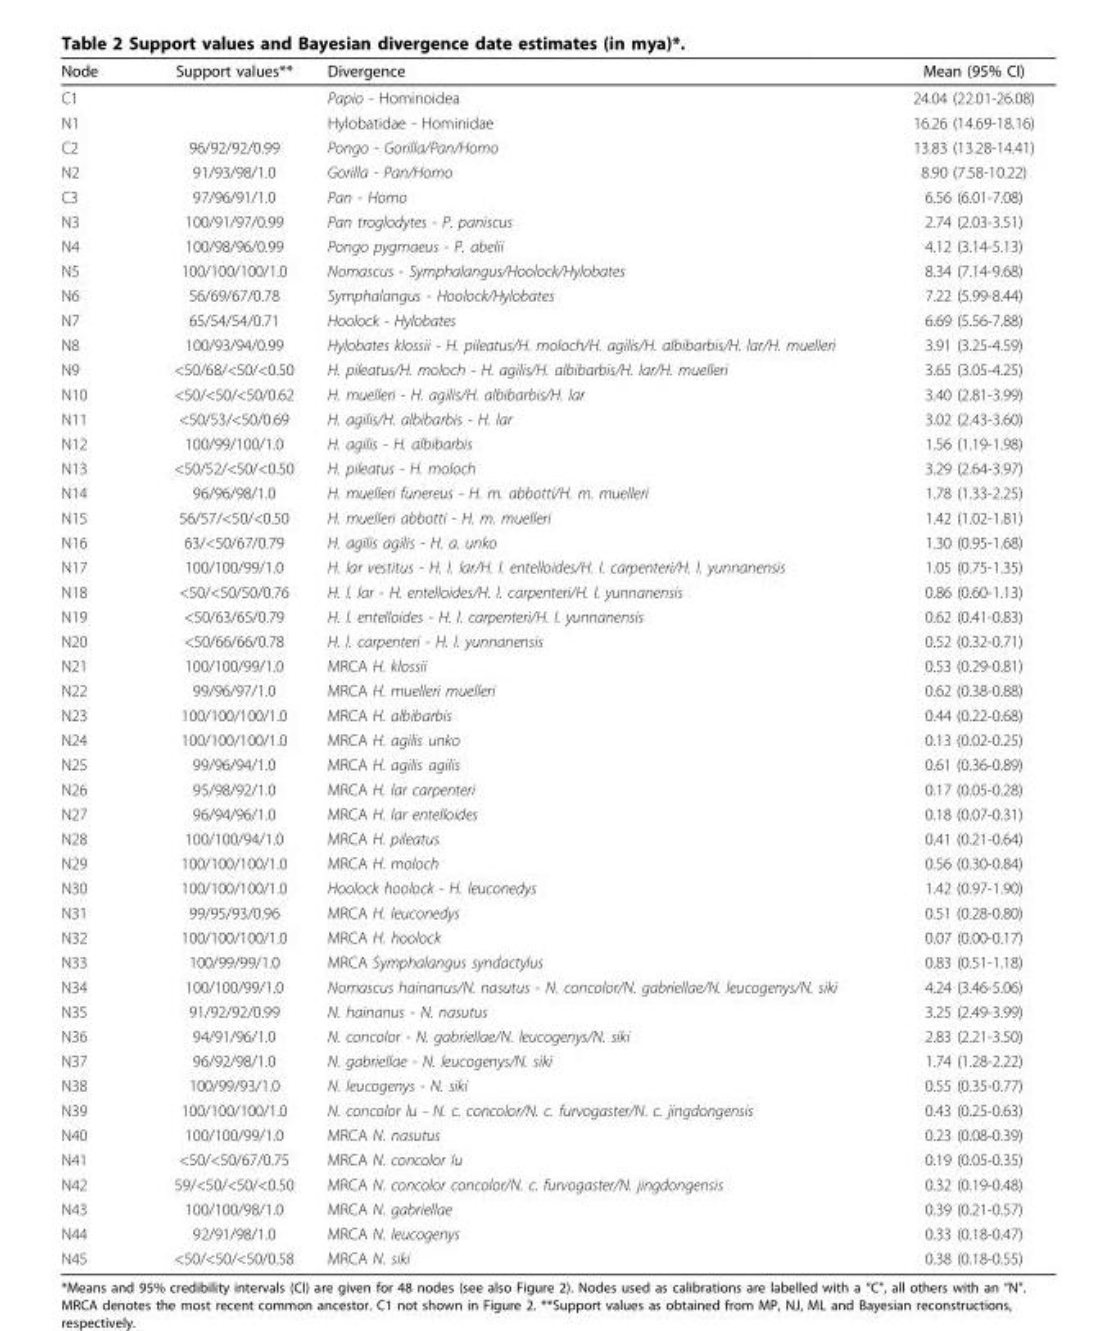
<table><thead><tr><td>Node</td><td>Support values**</td><td>Divergence</td><td>Mean (95% CI)</td></tr></thead><tbody><tr><td>C1</td><td></td><td>Papio - Hominoidea</td><td>24.04 (22.01-26.08)</td></tr><tr><td>N1</td><td></td><td>Hylobatidae - Hominidae</td><td>16.26 (14.69-18.16)</td></tr><tr><td>C2</td><td>96/92/92/0.99</td><td>Pongo - Gorilla/Pan/Homo</td><td>13.83 (13.28-14.41)</td></tr><tr><td>N2</td><td>91/93/98/1.0</td><td>Gorilla - Pan/Homo</td><td>8.90 (7.58-10.22)</td></tr><tr><td>C3</td><td>97/96/91/1.0</td><td>Pan - Homo</td><td>6.56 (6.01-7.08)</td></tr><tr><td>N3</td><td>100/91/97/0.99</td><td>Pan troglodytes - P. paniscus</td><td>2.74 (2.03-3.51)</td></tr><tr><td>N4</td><td>100/98/96/0.99</td><td>Pongo pygmaeus - P. abelii</td><td>4.12 (3.14-5.13)</td></tr><tr><td>N5</td><td>100/100/100/1.0</td><td>Nomascus - Symphalangus/Hoolock/Hylobates</td><td>8.34 (7.14-9.68)</td></tr><tr><td>N6</td><td>56/69/67/0.78</td><td>Symphalangus - Hoolock/Hylobates</td><td>7.22 (5.99-8.44)</td></tr><tr><td>N7</td><td>65/54/54/0.71</td><td>Hoolock - Hylobates</td><td>6.69 (5.56-7.88)</td></tr><tr><td>N8</td><td>100/93/94/0.99</td><td>Hylobates klossii - H. pileatus/H. moloch/H. agilis/H. albibarbis/H. lar/H. muelleri</td><td>3.91 (3.25-4.59)</td></tr><tr><td>N9</td><td>&lt;50/68/&lt;50/&lt;0.50</td><td>H. pileatus/H. moloch - H. agilis/H. albibarbis/H. lar/H. muelleri</td><td>3.65 (3.05-4.25)</td></tr><tr><td>N10</td><td>&lt;50/&lt;50/&lt;50/0.62</td><td>H. muelleri - H. agilis/H. albibarbis/H. lar</td><td>3.40 (2.81-3.99)</td></tr><tr><td>N11</td><td>&lt;50/53/&lt;50/0.69</td><td>H. agilis/H. albibarbis - H. lar</td><td>3.02 (2.43-3.60)</td></tr><tr><td>N12</td><td>100/99/100/1.0</td><td>H. agilis - H. albibarbis</td><td>1.56 (1.19-1.98)</td></tr><tr><td>N13</td><td>&lt;50/52/&lt;50/&lt;0.50</td><td>H. pileatus - H. moloch</td><td>3.29 (2.64-3.97)</td></tr><tr><td>N14</td><td>96/96/98/1.0</td><td>H. muelleri funereus - H. m. abbotti/H. m. muelleri</td><td>1.78 (1.33-2.25)</td></tr><tr><td>N15</td><td>56/57/&lt;50/&lt;0.50</td><td>H. muelleri abbotti - H. m. muelleri</td><td>1.42 (1.02-1.81)</td></tr><tr><td>N16</td><td>63/&lt;50/67/0.79</td><td>H. agilis agilis - H. a. unko</td><td>1.30 (0.95-1.68)</td></tr><tr><td>N17</td><td>100/100/99/1.0</td><td>H. lar vestitus - H. l. lar/H. l. entelloides/H. l. carpenteri/H. l. yunnanensis</td><td>1.05 (0.75-1.35)</td></tr><tr><td>N18</td><td>&lt;50/&lt;50/50/0.76</td><td>H. l. lar - H. entelloides/H. l. carpenteri/H. l. yunnanensis</td><td>0.86 (0.60-1.13)</td></tr><tr><td>N19</td><td>&lt;50/63/65/0.79</td><td>H. l. entelloides - H. l. carpenteri/H. l. yunnanensis</td><td>0.62 (0.41-0.83)</td></tr><tr><td>N20</td><td>&lt;50/66/66/0.78</td><td>H. l. carpenteri - H. l. yunnanensis</td><td>0.52 (0.32-0.71)</td></tr><tr><td>N21</td><td>100/100/99/1.0</td><td>MRCA H. klossii</td><td>0.53 (0.29-0.81)</td></tr><tr><td>N22</td><td>99/96/97/1.0</td><td>MRCA H. muelleri muelleri</td><td>0.62 (0.38-0.88)</td></tr><tr><td>N23</td><td>100/100/100/1.0</td><td>MRCA H. albibarbis</td><td>0.44 (0.22-0.68)</td></tr><tr><td>N24</td><td>100/100/100/1.0</td><td>MRCA H. agilis unko</td><td>0.13 (0.02-0.25)</td></tr><tr><td>N25</td><td>99/96/94/1.0</td><td>MRCA H. agilis agilis</td><td>0.61 (0.36-0.89)</td></tr><tr><td>N26</td><td>95/98/92/1.0</td><td>MRCA H. lar carpenteri</td><td>0.17 (0.05-0.28)</td></tr><tr><td>N27</td><td>96/94/96/1.0</td><td>MRCA H. lar entelloides</td><td>0.18 (0.07-0.31)</td></tr><tr><td>N28</td><td>100/100/94/1.0</td><td>MRCA H. pileatus</td><td>0.41 (0.21-0.64)</td></tr><tr><td>N29</td><td>100/100/100/1.0</td><td>MRCA H. moloch</td><td>0.56 (0.30-0.84)</td></tr><tr><td>N30</td><td>100/100/100/1.0</td><td>Hoolock hoolock - H. leuconedys</td><td>1.42 (0.97-1.90)</td></tr><tr><td>N31</td><td>99/95/93/0.96</td><td>MRCA H. leuconedys</td><td>0.51 (0.28-0.80)</td></tr><tr><td>N32</td><td>100/100/100/1.0</td><td>MRCA H. hoolock</td><td>0.07 (0.00-0.17)</td></tr><tr><td>N33</td><td>100/99/99/1.0</td><td>MRCA Symphalangus syndactylus</td><td>0.83 (0.51-1.18)</td></tr><tr><td>N34</td><td>100/100/99/1.0</td><td>Nomascus hainanus/N. nasutus - N. concolor/N. gabriellae/N. leucogenys/N. siki</td><td>4.24 (3.46-5.06)</td></tr><tr><td>N35</td><td>91/92/92/0.99</td><td>N. hainanus - N. nasutus</td><td>3.25 (2.49-3.99)</td></tr><tr><td>N36</td><td>94/91/96/1.0</td><td>N. concolor - N. gabriellae/N. leucogenys/N. siki</td><td>2.83 (2.21-3.50)</td></tr><tr><td>N37</td><td>96/92/98/1.0</td><td>N. gabriellae - N. leucogenys/N. siki</td><td>1.74 (1.28-2.22)</td></tr><tr><td>N38</td><td>100/99/93/1.0</td><td>N. leucogenys - N. siki</td><td>0.55 (0.35-0.77)</td></tr><tr><td>N39</td><td>100/100/100/1.0</td><td>N. concolor lu - N. c. concolor/N. c. furvogaster/N. c. jingdongensis</td><td>0.43 (0.25-0.63)</td></tr><tr><td>N40</td><td>100/100/99/1.0</td><td>MRCA N. nasutus</td><td>0.23 (0.08-0.39)</td></tr><tr><td>N41</td><td>&lt;50/&lt;50/67/0.75</td><td>MRCA N. concolor lu</td><td>0.19 (0.05-0.35)</td></tr><tr><td>N42</td><td>59/&lt;50/&lt;50/&lt;0.50</td><td>MRCA N. concolor concolor/N. c. furvogaster/N. jingdongensis</td><td>0.32 (0.19-0.48)</td></tr><tr><td>N43</td><td>100/100/98/1.0</td><td>MRCA N. gabriellae</td><td>0.39 (0.21-0.57)</td></tr><tr><td>N44</td><td>92/91/98/1.0</td><td>MRCA N. leucogenys</td><td>0.33 (0.18-0.47)</td></tr><tr><td>N45</td><td>&lt;50/&lt;50/&lt;50/0.58</td><td>MRCA N. siki</td><td>0.38 (0.18-0.55)</td></tr></tbody></table>